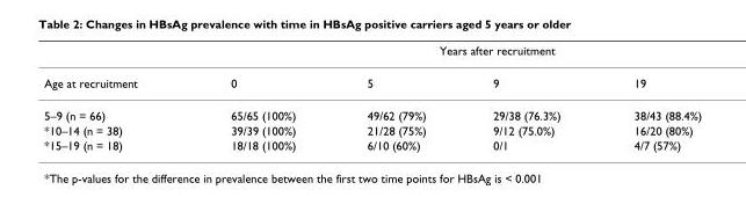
<table><thead><tr><td rowspan="2">Age at recruitment</td><td colspan="4">Years after recruitment</td></tr><tr><td>0</td><td>5</td><td>9</td><td>19</td></tr></thead><tbody><tr><td>5–9 (n = 66)</td><td>65/65 (100%)</td><td>49/62 (79%)</td><td>29/38 (76.3%)</td><td>38/43 (88.4%)</td></tr><tr><td>*10–14 (n = 38)</td><td>39/39 (100%)</td><td>21/28 (75%)</td><td>9/12 (75.0%)</td><td>16/20 (80%)</td></tr><tr><td>*15–19 (n = 18)</td><td>18/18 (100%)</td><td>6/10 (60%)</td><td>0/1</td><td>4/7 (57%)</td></tr></tbody></table>